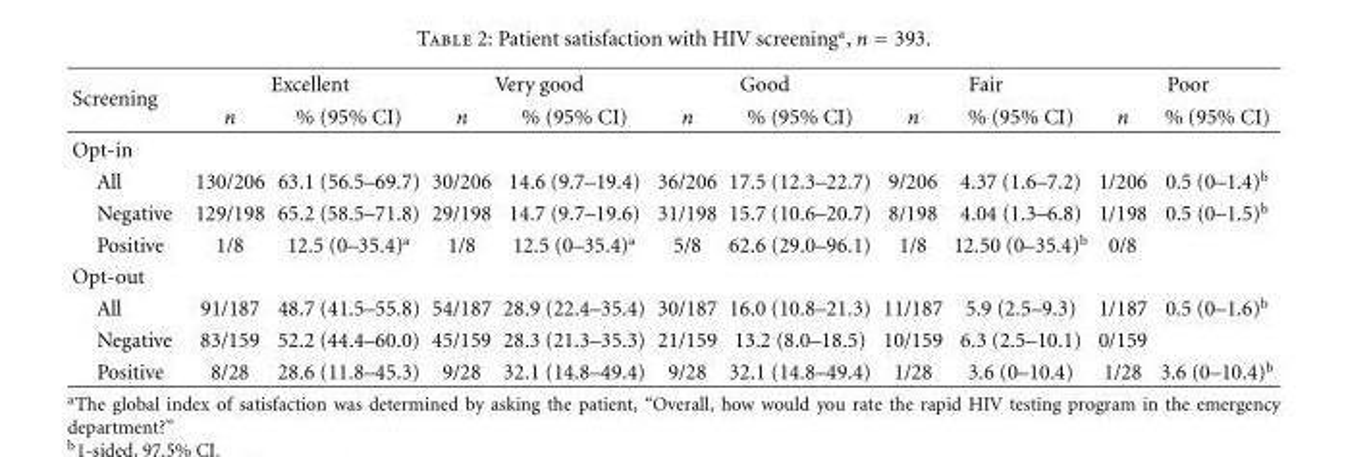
<table><thead><tr><td rowspan="2">Screening</td><td colspan="2">Excellent</td><td colspan="2">Very good</td><td colspan="2">Good</td><td colspan="2">Fair</td><td colspan="2">Poor</td></tr><tr><td>n</td><td>% (95% CI)</td><td>n</td><td>% (95% CI)</td><td>n</td><td>% (95% CI)</td><td>n</td><td>% (95% CI)</td><td>n</td><td>% (95% CI)</td></tr></thead><tbody><tr><td colspan="11">Opt-in</td></tr><tr><td>All</td><td>130/206</td><td>63.1 (56.5–69.7)</td><td>30/206</td><td>14.6 (9.7–19.4)</td><td>36/206</td><td>17.5 (12.3–22.7)</td><td>9/206</td><td>4.37 (1.6–7.2)</td><td>1/206</td><td>0.5 (0–1.4)<sup>b</sup></td></tr><tr><td>Negative</td><td>129/198</td><td>65.2 (58.5–71.8)</td><td>29/198</td><td>14.7 (9.7–19.6)</td><td>31/198</td><td>15.7 (10.6–20.7)</td><td>8/198</td><td>4.04 (1.3–6.8)</td><td>1/198</td><td>0.5 (0–1.5)<sup>b</sup></td></tr><tr><td>Positive</td><td>1/8</td><td>12.5 (0–35.4)<sup>a</sup></td><td>1/8</td><td>12.5 (0–35.4)<sup>a</sup></td><td>5/8</td><td>62.6 (29.0–96.1)</td><td>1/8</td><td>12.50 (0–35.4)<sup>b</sup></td><td>0/8</td><td></td></tr><tr><td colspan="11">Opt-out</td></tr><tr><td>All</td><td>91/187</td><td>48.7 (41.5–55.8)</td><td>54/187</td><td>28.9 (22.4–35.4)</td><td>30/187</td><td>16.0 (10.8–21.3)</td><td>11/187</td><td>5.9 (2.5–9.3)</td><td>1/187</td><td>0.5 (0–1.6)<sup>b</sup></td></tr><tr><td>Negative</td><td>83/159</td><td>52.2 (44.4–60.0)</td><td>45/159</td><td>28.3 (21.3–35.3)</td><td>21/159</td><td>13.2 (8.0–18.5)</td><td>10/159</td><td>6.3 (2.5–10.1)</td><td>0/159</td><td></td></tr><tr><td>Positive</td><td>8/28</td><td>28.6 (11.8–45.3)</td><td>9/28</td><td>32.1 (14.8–49.4)</td><td>9/28</td><td>32.1 (14.8–49.4)</td><td>1/28</td><td>3.6 (0–10.4)</td><td>1/28</td><td>3.6 (0–10.4)<sup>b</sup></td></tr></tbody></table>